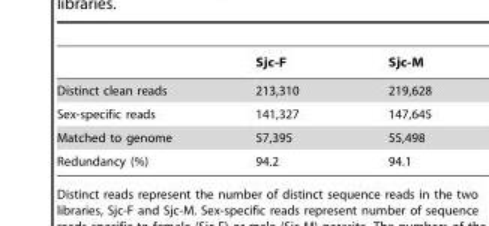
<table><thead><tr><td></td><td>Sjc-F</td><td>Sjc-M</td></tr></thead><tbody><tr><td>Distinct clean reads</td><td>213,310</td><td>219,628</td></tr><tr><td>Sex-specific reads</td><td>141,327</td><td>147,645</td></tr><tr><td>Matched to genome</td><td>57,395</td><td>55,498</td></tr><tr><td>Redundancy (%)</td><td>94.2</td><td>94.1</td></tr></tbody></table>